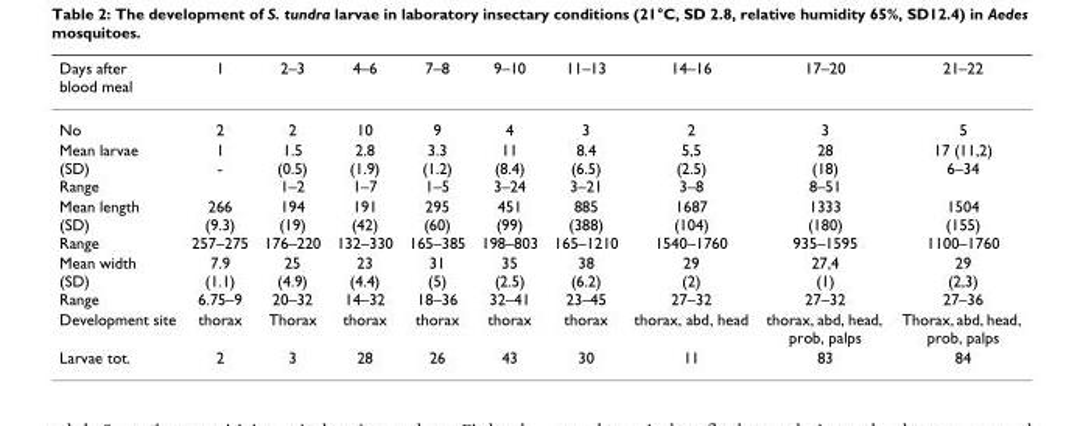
<table><thead><tr><td>Days after blood meal</td><td>1</td><td>2–3</td><td>4–6</td><td>7–8</td><td>9–10</td><td>11–13</td><td>14–16</td><td>17–20</td><td>21–22</td></tr></thead><tbody><tr><td>No</td><td>2</td><td>2</td><td>10</td><td>9</td><td>4</td><td>3</td><td>2</td><td>3</td><td>5</td></tr><tr><td>Mean larvae (SD) Range</td><td>1 -</td><td>1.5 (0.5) 1–2</td><td>2.8 (1.9) 1–7</td><td>3.3 (1.2) 1–5</td><td>11 (8.4) 3–24</td><td>8.4 (6.5) 3–21</td><td>5,5 (2.5) 3–8</td><td>28 (18) 8–51</td><td>17 (11,2) 6–34</td></tr><tr><td>Mean length (SD) Range</td><td>266 (9.3) 257–275</td><td>194 (19) 176–220</td><td>191 (42) 132–330</td><td>295 (60) 165–385</td><td>451 (99) 198–803</td><td>885 (388) 165–1210</td><td>1687 (104) 1540–1760</td><td>1333 (180) 935–1595</td><td>1504 (155) 1100–1760</td></tr><tr><td>Mean width (SD) Range</td><td>7.9 (1.1) 6.75–9</td><td>25 (4.9) 20–32</td><td>23 (4.4) 14–32</td><td>31 (5) 18–36</td><td>35 (2.5) 32–41</td><td>38 (6.2) 23–45</td><td>29 (2) 27–32</td><td>27,4 (1) 27–32</td><td>29 (2,3) 27–36</td></tr><tr><td>Development site</td><td>thorax</td><td>Thorax</td><td>thorax</td><td>thorax</td><td>thorax</td><td>thorax</td><td>thorax, abd, head</td><td>thorax, abd, head, prob, palps</td><td>Thorax, abd, head, prob, palps</td></tr><tr><td>Larvae tot.</td><td>2</td><td>3</td><td>28</td><td>26</td><td>43</td><td>30</td><td>11</td><td>83</td><td>84</td></tr></tbody></table>